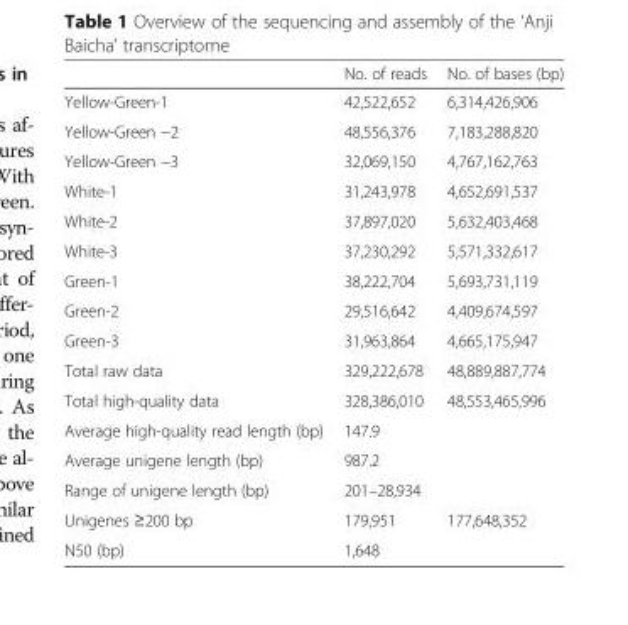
<table><thead><tr><td></td><td>No. of reads</td><td>No. of bases (bp)</td></tr></thead><tbody><tr><td>Yellow-Green-1</td><td>42,522,652</td><td>6,314,426,906</td></tr><tr><td>Yellow-Green −2</td><td>48,556,376</td><td>7,183,288,820</td></tr><tr><td>Yellow-Green −3</td><td>32,069,150</td><td>4,767,162,763</td></tr><tr><td>White-1</td><td>31,243,978</td><td>4,652,691,537</td></tr><tr><td>White-2</td><td>37,897,020</td><td>5,632,403,468</td></tr><tr><td>White-3</td><td>37,230,292</td><td>5,571,332,617</td></tr><tr><td>Green-1</td><td>38,222,704</td><td>5,693,731,119</td></tr><tr><td>Green-2</td><td>29,516,642</td><td>4,409,674,597</td></tr><tr><td>Green-3</td><td>31,963,864</td><td>4,665,175,947</td></tr><tr><td>Total raw data</td><td>329,222,678</td><td>48,889,887,774</td></tr><tr><td>Total high-quality data</td><td>328,386,010</td><td>48,553,465,996</td></tr><tr><td>Average high-quality read length (bp)</td><td>147.9</td><td></td></tr><tr><td>Average unigene length (bp)</td><td>987.2</td><td></td></tr><tr><td>Range of unigene length (bp)</td><td>201–28,934</td><td></td></tr><tr><td>Unigenes ≥200 bp</td><td>179,951</td><td>177,648,352</td></tr><tr><td>N50 (bp)</td><td>1,648</td><td></td></tr></tbody></table>